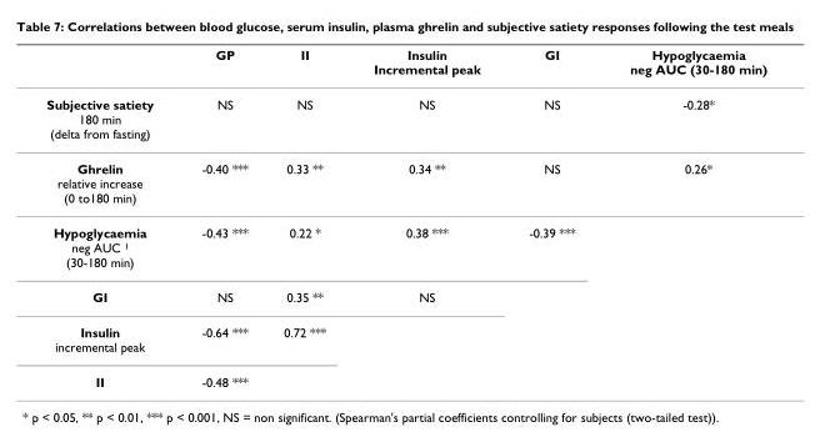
<table><thead><tr><td></td><td>GP</td><td>II</td><td>Insulin Incremental peak</td><td>GI</td><td>Hypoglycaemia neg AUC (30-180 min)</td></tr></thead><tbody><tr><td>Subjective satiety 180 min (delta from fasting)</td><td>NS</td><td>NS</td><td>NS</td><td>NS</td><td>-0.28*</td></tr><tr><td>Ghrelin relative increase (0 to180 min)</td><td>-0.40 ***</td><td>0.33 **</td><td>0.34 **</td><td>NS</td><td>0.26*</td></tr><tr><td>Hypoglycaemia neg AUC <sup>1</sup> (30-180 min)</td><td>-0.43 ***</td><td>0.22 *</td><td>0.38 ***</td><td>-0.39 ***</td><td></td></tr><tr><td>GI</td><td>NS</td><td>0.35 **</td><td>NS</td><td></td><td></td></tr><tr><td>Insulin incremental peak</td><td>-0.64 ***</td><td>0.72 ***</td><td></td><td></td><td></td></tr><tr><td>II</td><td>-0.48 ***</td><td></td><td></td><td></td><td></td></tr></tbody></table>